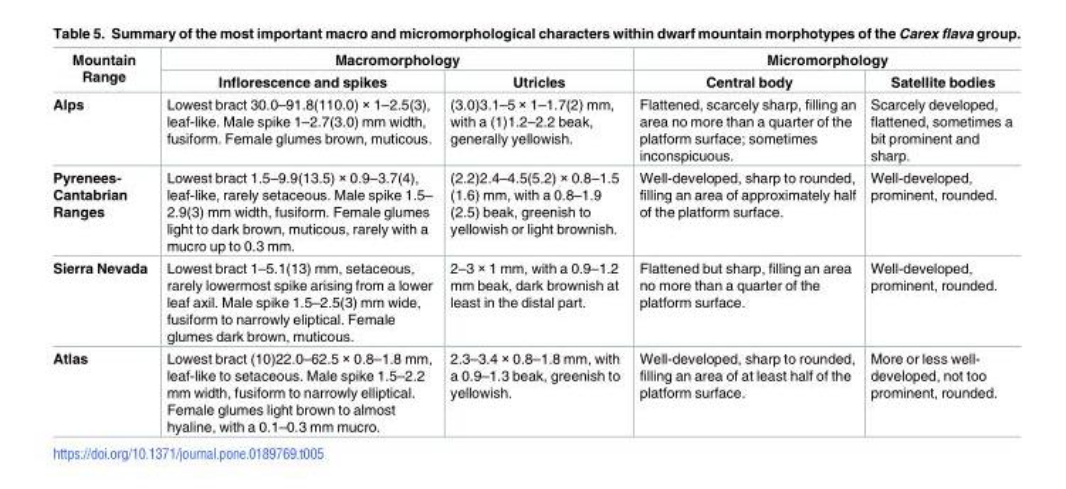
<table><thead><tr><td rowspan="2">Mountain Range</td><td colspan="2">Macromorphology</td><td colspan="2">Micromorphology</td></tr><tr><td>Inflorescence and spikes</td><td>Utricles</td><td>Central body</td><td>Satellite bodies</td></tr></thead><tbody><tr><td>Alps</td><td>Lowest bract 30.0–91.8(110.0) × 1–2.5(3), leaf-like. Male spike 1–2.7(3.0) mm width, fusiform. Female glumes brown, muticous.</td><td>(3.0)3.1–5 × 1–1.7(2) mm, with a (1)1.2–2.2 beak, generally yellowish.</td><td>Flattened, scarcely sharp, filling an area no more than a quarter of the platform surface; sometimes inconspicuous.</td><td>Scarcely developed, flattened, sometimes a bit prominent and sharp.</td></tr><tr><td>Pyrenees- Cantabrian Ranges</td><td>Lowest bract 1.5–9.9(13.5) × 0.9–3.7(4), leaf-like, rarely setaceous. Male spike 1.5– 2.9(3) mm width, fusiform. Female glumes light to dark brown, muticous, rarely with a mucro up to 0.3 mm.</td><td>(2.2)2.4–4.5(5.2) × 0.8–1.5 (1.6) mm, with a 0.8–1.9 (2.5) beak, greenish to yellowish or light brownish.</td><td>Well-developed, sharp to rounded, filling an area of approximately half of the platform surface.</td><td>Well-developed, prominent, rounded.</td></tr><tr><td>Sierra Nevada</td><td>Lowest bract 1–5.1(13) mm, setaceous, rarely lowermost spike arising from a lower leaf axil. Male spike 1.5–2.5(3) mm wide, fusiform to narrowly eliptical. Female glumes dark brown, muticous.</td><td>2–3 × 1 mm, with a 0.9–1.2 mm beak, dark brownish at least in the distal part.</td><td>Flattened but sharp, filling an area no more than a quarter of the platform surface.</td><td>Well-developed, prominent, rounded.</td></tr><tr><td>Atlas</td><td>Lowest bract (10)22.0–62.5 × 0.8–1.8 mm, leaf-like to setaceous. Male spike 1.5–2.2 mm width, fusiform to narrowly elliptical. Female glumes light brown to almost hyaline, with a 0.1–0.3 mm mucro.</td><td>2.3–3.4 × 0.8–1.8 mm, with a 0.9–1.3 beak, greenish to yellowish.</td><td>Well-developed, sharp to rounded, filling an area of at least half of the platform surface.</td><td>More or less well- developed, not too prominent, rounded.</td></tr></tbody></table>